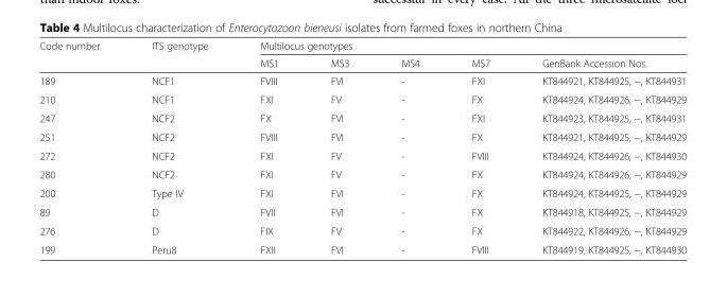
<table><thead><tr><td rowspan="2">Code number</td><td rowspan="2">ITS genotype</td><td colspan="5">Multilocus genotypes</td></tr><tr><td>MS1</td><td>MS3</td><td>MS4</td><td>MS7</td><td>GenBank Accession Nos.</td></tr></thead><tbody><tr><td>189</td><td>NCF1</td><td>FVIII</td><td>FVI</td><td>-</td><td>FXI</td><td>KT844921, KT844925, −, KT844931</td></tr><tr><td>210</td><td>NCF1</td><td>FXI</td><td>FV</td><td>-</td><td>FX</td><td>KT844924, KT844926, −, KT844929</td></tr><tr><td>247</td><td>NCF2</td><td>FX</td><td>FVI</td><td>-</td><td>FXI</td><td>KT844923, KT844925, −, KT844931</td></tr><tr><td>251</td><td>NCF2</td><td>FVIII</td><td>FVI</td><td>-</td><td>FX</td><td>KT844921, KT844925, −, KT844929</td></tr><tr><td>272</td><td>NCF2</td><td>FXI</td><td>FV</td><td>-</td><td>FVIII</td><td>KT844924, KT844926, −, KT844930</td></tr><tr><td>280</td><td>NCF2</td><td>FXI</td><td>FV</td><td>-</td><td>FX</td><td>KT844924, KT844926, −, KT844929</td></tr><tr><td>200</td><td>Type IV</td><td>FXI</td><td>FVI</td><td>-</td><td>FX</td><td>KT844924, KT844925, −, KT844929</td></tr><tr><td>89</td><td>D</td><td>FVII</td><td>FVI</td><td>-</td><td>FX</td><td>KT844918, KT844925, −, KT844929</td></tr><tr><td>276</td><td>D</td><td>FIX</td><td>FV</td><td>-</td><td>FX</td><td>KT844922, KT844926, −, KT844929</td></tr><tr><td>199</td><td>Peru8</td><td>FXII</td><td>FVI</td><td>-</td><td>FVIII</td><td>KT844919, KT844925, −, KT844930</td></tr></tbody></table>